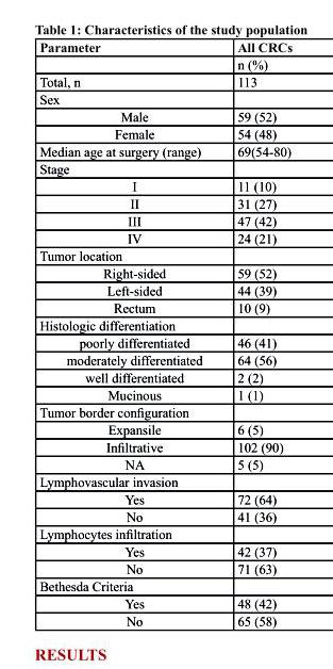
<table><thead><tr><td>Parameter</td><td>All crcs</td></tr></thead><tbody><tr><td></td><td>n (%)</td></tr><tr><td>Total, n</td><td>113</td></tr><tr><td colspan="2">Sex</td></tr><tr><td>Male</td><td>59 (52)</td></tr><tr><td>Female</td><td>54 (48)</td></tr><tr><td>Median age at surgery (range)</td><td>69(54-80)</td></tr><tr><td colspan="2">Stage</td></tr><tr><td>I</td><td>11 (10)</td></tr><tr><td>II</td><td>31 (27)</td></tr><tr><td>III</td><td>47 (42)</td></tr><tr><td>IV</td><td>24 (21)</td></tr><tr><td colspan="2">Tumor location</td></tr><tr><td>Right-sided</td><td>59 (52)</td></tr><tr><td>Left-sided</td><td>44 (39)</td></tr><tr><td>Rectum</td><td>10 (9)</td></tr><tr><td colspan="2">Histologic differentiation</td></tr><tr><td>poorly differentiated</td><td>46 (41)</td></tr><tr><td>moderately differentiated</td><td>64 (56)</td></tr><tr><td>well differentiated</td><td>2 (2)</td></tr><tr><td>Mucinous</td><td>1 (1)</td></tr><tr><td colspan="2">Tumor border configuration</td></tr><tr><td>Expansile</td><td>6 (5)</td></tr><tr><td>Infiltrative</td><td>102 (90)</td></tr><tr><td>NA</td><td>5 (5)</td></tr><tr><td colspan="2">Lymphovascular invasion</td></tr><tr><td>Yes</td><td>72 (64)</td></tr><tr><td>No</td><td>41 (36)</td></tr><tr><td colspan="2">Lymphocytes infiltration</td></tr><tr><td>Yes</td><td>42 (37)</td></tr><tr><td>No</td><td>71 (63)</td></tr><tr><td colspan="2">Bethesda Criteria</td></tr><tr><td>Yes</td><td>48 (42)</td></tr><tr><td>No</td><td>65 (58)</td></tr></tbody></table>